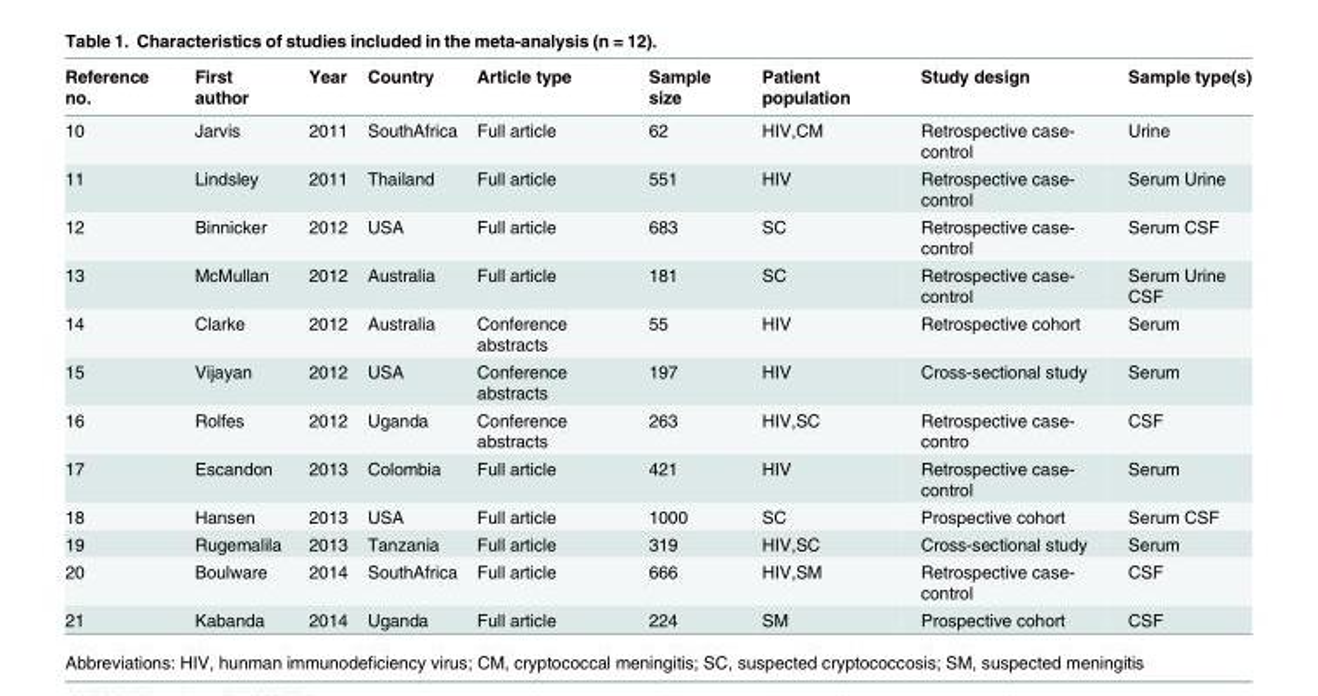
<table><thead><tr><td>Reference no.</td><td>First author</td><td>Year</td><td>Country</td><td>Article type</td><td>Sample size</td><td>Patient population</td><td>Study design</td><td>Sample type(s)</td></tr></thead><tbody><tr><td>10</td><td>Jarvis</td><td>2011</td><td>SouthAfrica</td><td>Full article</td><td>62</td><td>HIV,CM</td><td>Retrospective case- control</td><td>Urine</td></tr><tr><td>11</td><td>Lindsley</td><td>2011</td><td>Thailand</td><td>Full article</td><td>551</td><td>HIV</td><td>Retrospective case- control</td><td>Serum Urine</td></tr><tr><td>12</td><td>Binnicker</td><td>2012</td><td>USA</td><td>Full article</td><td>683</td><td>SC</td><td>Retrospective case- control</td><td>Serum CSF</td></tr><tr><td>13</td><td>McMullan</td><td>2012</td><td>Australia</td><td>Full article</td><td>181</td><td>SC</td><td>Retrospective case- control</td><td>Serum Urine CSF</td></tr><tr><td>14</td><td>Clarke</td><td>2012</td><td>Australia</td><td>Conference abstracts</td><td>55</td><td>HIV</td><td>Retrospective cohort</td><td>Serum</td></tr><tr><td>15</td><td>Vijayan</td><td>2012</td><td>USA</td><td>Conference abstracts</td><td>197</td><td>HIV</td><td>Cross-sectional study</td><td>Serum</td></tr><tr><td>16</td><td>Rolfes</td><td>2012</td><td>Uganda</td><td>Conference abstracts</td><td>263</td><td>HIV,SC</td><td>Retrospective case- contro</td><td>CSF</td></tr><tr><td>17</td><td>Escandon</td><td>2013</td><td>Colombia</td><td>Full article</td><td>421</td><td>HIV</td><td>Retrospective case- control</td><td>Serum</td></tr><tr><td>18</td><td>Hansen</td><td>2013</td><td>USA</td><td>Full article</td><td>1000</td><td>SC</td><td>Prospective cohort</td><td>Serum CSF</td></tr><tr><td>19</td><td>Rugemalila</td><td>2013</td><td>Tanzania</td><td>Full article</td><td>319</td><td>HIV,SC</td><td>Cross-sectional study</td><td>Serum</td></tr><tr><td>20</td><td>Boulware</td><td>2014</td><td>SouthAfrica</td><td>Full article</td><td>666</td><td>HIV,SM</td><td>Retrospective case- control</td><td>CSF</td></tr><tr><td>21</td><td>Kabanda</td><td>2014</td><td>Uganda</td><td>Full article</td><td>224</td><td>SM</td><td>Prospective cohort</td><td>CSF</td></tr></tbody></table>